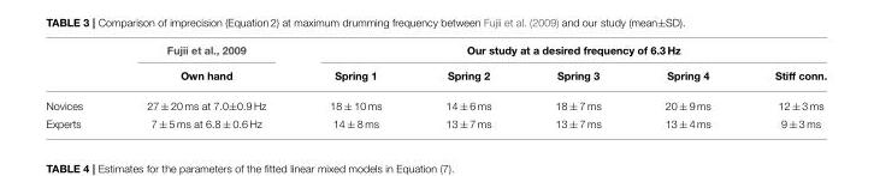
<table><thead><tr><td rowspan="2"></td><td rowspan="2">Fujii et al., 2009 Own hand</td><td colspan="5">Our study at a desired frequency of 6.3 Hz</td></tr><tr><td>Spring 1</td><td>Spring 2</td><td>Spring 3</td><td>Spring 4</td><td>Stiff conn.</td></tr></thead><tbody><tr><td>Novices</td><td>27 ± 20 ms at 7.0±0.9 Hz</td><td>18 ± 10 ms</td><td>14 ± 6 ms</td><td>18 ± 7 ms</td><td>20 ± 9 ms</td><td>12 ± 3 ms</td></tr><tr><td>Experts</td><td>7 ± 5 ms at 6.8 ± 0.6 Hz</td><td>14 ± 8 ms</td><td>13 ± 7 ms</td><td>13 ± 7 ms</td><td>13 ± 4 ms</td><td>9 ± 3 ms</td></tr></tbody></table>